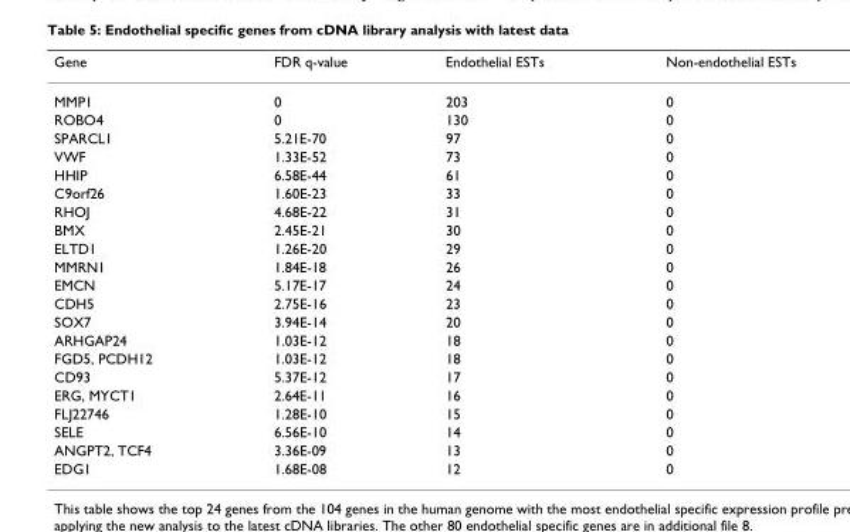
<table><thead><tr><td>Gene</td><td>FDR q-value</td><td>Endothelial ESTs</td><td>Non-endothelial ESTs</td></tr></thead><tbody><tr><td>MMP1</td><td>0</td><td>203</td><td>0</td></tr><tr><td>ROBO4</td><td>0</td><td>130</td><td>0</td></tr><tr><td>SPARCL1</td><td>5.21E-70</td><td>97</td><td>0</td></tr><tr><td>VWF</td><td>1.33E-52</td><td>73</td><td>0</td></tr><tr><td>HHIP</td><td>6.58E-44</td><td>61</td><td>0</td></tr><tr><td>C9orf26</td><td>1.60E-23</td><td>33</td><td>0</td></tr><tr><td>RHOJ</td><td>4.68E-22</td><td>31</td><td>0</td></tr><tr><td>BMX</td><td>2.45E-21</td><td>30</td><td>0</td></tr><tr><td>ELTD1</td><td>1.26E-20</td><td>29</td><td>0</td></tr><tr><td>MMRN1</td><td>1.84E-18</td><td>26</td><td>0</td></tr><tr><td>EMCN</td><td>5.17E-17</td><td>24</td><td>0</td></tr><tr><td>CDH5</td><td>2.75E-16</td><td>23</td><td>0</td></tr><tr><td>SOX7</td><td>3.94E-14</td><td>20</td><td>0</td></tr><tr><td>ARHGAP24</td><td>1.03E-12</td><td>18</td><td>0</td></tr><tr><td>FGD5, PCDH12</td><td>1.03E-12</td><td>18</td><td>0</td></tr><tr><td>CD93</td><td>5.37E-12</td><td>17</td><td>0</td></tr><tr><td>ERG, MYCT1</td><td>2.64E-11</td><td>16</td><td>0</td></tr><tr><td>FLJ22746</td><td>1.28E-10</td><td>15</td><td>0</td></tr><tr><td>SELE</td><td>6.56E-10</td><td>14</td><td>0</td></tr><tr><td>ANGPT2, TCF4</td><td>3.36E-09</td><td>13</td><td>0</td></tr><tr><td>EDG1</td><td>1.68E-08</td><td>12</td><td>0</td></tr></tbody></table>